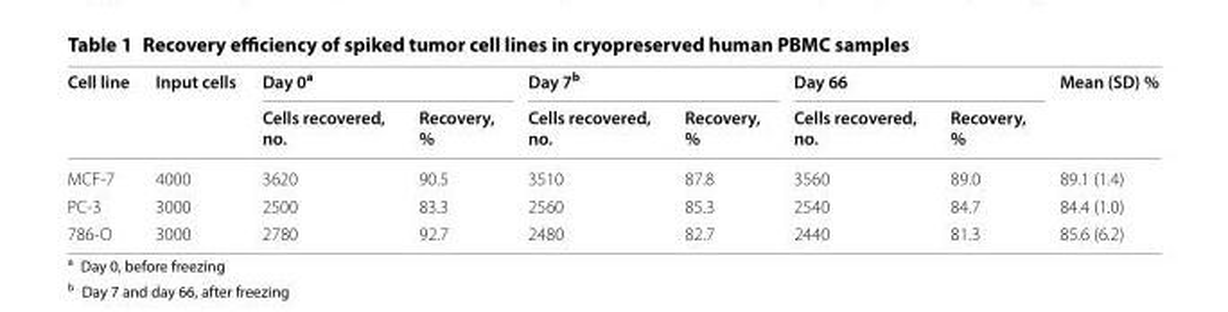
<table><thead><tr><td rowspan="2">Cell line</td><td rowspan="2">Input cells</td><td colspan="2">Day 0<sup>a</sup></td><td colspan="2">Day 7<sup>b</sup></td><td colspan="2">Day 66</td><td rowspan="2">Mean (SD) %</td></tr><tr><td>Cells recovered, no.</td><td>Recovery, %</td><td>Cells recovered, no.</td><td>Recovery, %</td><td>Cells recovered, no.</td><td>Recovery, %</td></tr></thead><tbody><tr><td>MCF‑7</td><td>4000</td><td>3620</td><td>90.5</td><td>3510</td><td>87.8</td><td>3560</td><td>89.0</td><td>89.1 (1.4)</td></tr><tr><td>PC‑3</td><td>3000</td><td>2500</td><td>83.3</td><td>2560</td><td>85.3</td><td>2540</td><td>84.7</td><td>84.4 (1.0)</td></tr><tr><td>786‑O</td><td>3000</td><td>2780</td><td>92.7</td><td>2480</td><td>82.7</td><td>2440</td><td>81.3</td><td>85.6 (6.2)</td></tr></tbody></table>